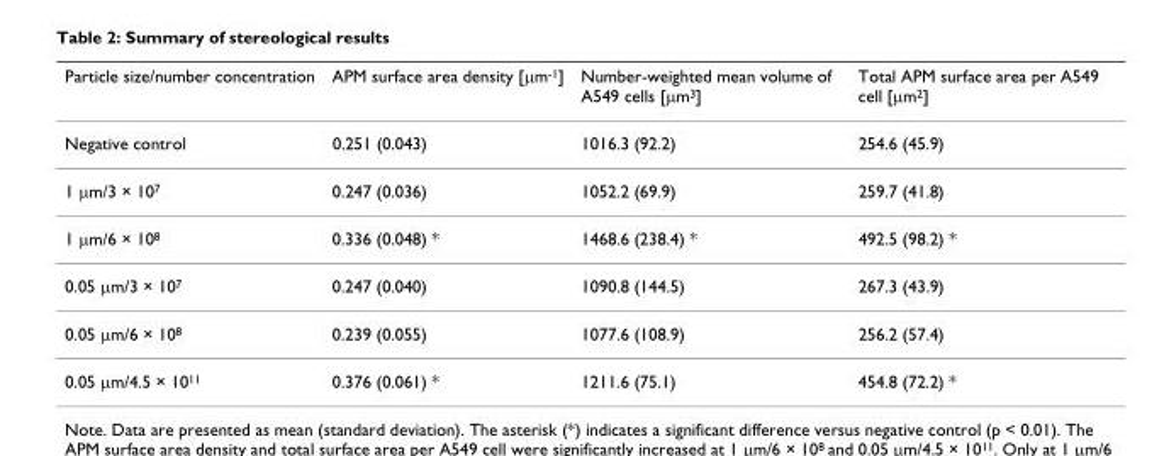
<table><thead><tr><td>Particle size/number concentration</td><td>APM surface area density [μm<sup>-1</sup>]</td><td>Number-weighted mean volume of A549 cells [μm<sup>3</sup>]</td><td>Total APM surface area per A549 cell [μm<sup>2</sup>]</td></tr></thead><tbody><tr><td>Negative control</td><td>0.251 (0.043)</td><td>1016.3 (92.2)</td><td>254.6 (45.9)</td></tr><tr><td>1 μm/3 × 10<sup>7</sup></td><td>0.247 (0.036)</td><td>1052.2 (69.9)</td><td>259.7 (41.8)</td></tr><tr><td>1 μm/6 × 10<sup>8</sup></td><td>0.336 (0.048) *</td><td>1468.6 (238.4) *</td><td>492.5 (98.2) *</td></tr><tr><td>0.05 μm/3 × 10<sup>7</sup></td><td>0.247 (0.040)</td><td>1090.8 (144.5)</td><td>267.3 (43.9)</td></tr><tr><td>0.05 μm/6 × 10<sup>8</sup></td><td>0.239 (0.055)</td><td>1077.6 (108.9)</td><td>256.2 (57.4)</td></tr><tr><td>0.05 μm/4.5 × 10<sup>11</sup></td><td>0.376 (0.061) *</td><td>1211.6 (75.1)</td><td>454.8 (72.2) *</td></tr></tbody></table>